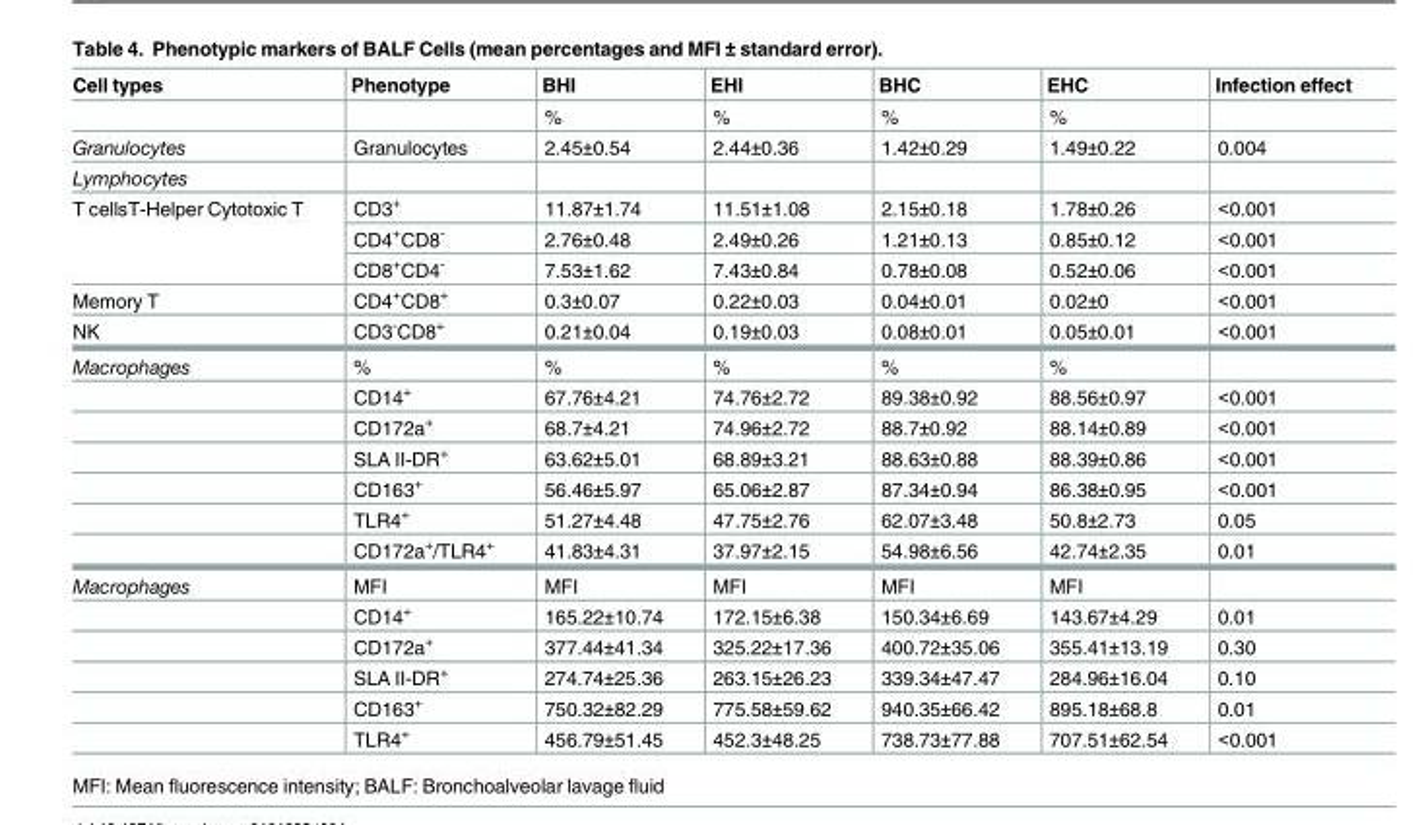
<table><thead><tr><td>Cell types</td><td>Phenotype</td><td>BHI</td><td>EHI</td><td>BHC</td><td>EHC</td><td>Infection effect</td></tr></thead><tbody><tr><td></td><td></td><td>%</td><td>%</td><td>%</td><td>%</td><td></td></tr><tr><td>Granulocytes</td><td>Granulocytes</td><td>2.45±0.54</td><td>2.44±0.36</td><td>1.42±0.29</td><td>1.49±0.22</td><td>0.004</td></tr><tr><td colspan="7">Lymphocytes</td></tr><tr><td rowspan="3">T cellsT-Helper Cytotoxic T</td><td>CD3<sup>+</sup></td><td>11.87±1.74</td><td>11.51±1.08</td><td>2.15±0.18</td><td>1.78±0.26</td><td>&lt;0.001</td></tr><tr><td>CD4<sup>+</sup>CD8<sup>-</sup></td><td>2.76±0.48</td><td>2.49±0.26</td><td>1.21±0.13</td><td>0.85±0.12</td><td>&lt;0.001</td></tr><tr><td>CD8<sup>+</sup>CD4<sup>-</sup></td><td>7.53±1.62</td><td>7.43±0.84</td><td>0.78±0.08</td><td>0.52±0.06</td><td>&lt;0.001</td></tr><tr><td>Memory T</td><td>CD4<sup>+</sup>CD8<sup>+</sup></td><td>0.3±0.07</td><td>0.22±0.03</td><td>0.04±0.01</td><td>0.02±0</td><td>&lt;0.001</td></tr><tr><td>NK</td><td>CD3<sup>-</sup>CD8<sup>+</sup></td><td>0.21±0.04</td><td>0.19±0.03</td><td>0.08±0.01</td><td>0.05±0.01</td><td>&lt;0.001</td></tr><tr><td rowspan="7">Macrophages</td><td>%</td><td>%</td><td>%</td><td>%</td><td>%</td><td></td></tr><tr><td>CD14<sup>+</sup></td><td>67.76±4.21</td><td>74.76±2.72</td><td>89.38±0.92</td><td>88.56±0.97</td><td>&lt;0.001</td></tr><tr><td>CD172a<sup>+</sup></td><td>68.7±4.21</td><td>74.96±2.72</td><td>88.7±0.92</td><td>88.14±0.89</td><td>&lt;0.001</td></tr><tr><td>SLA II-DR<sup>+</sup></td><td>63.62±5.01</td><td>68.89±3.21</td><td>88.63±0.88</td><td>88.39±0.86</td><td>&lt;0.001</td></tr><tr><td>CD163<sup>+</sup></td><td>56.46±5.97</td><td>65.06±2.87</td><td>87.34±0.94</td><td>86.38±0.95</td><td>&lt;0.001</td></tr><tr><td>TLR4<sup>+</sup></td><td>51.27±4.48</td><td>47.75±2.76</td><td>62.07±3.48</td><td>50.8±2.73</td><td>0.05</td></tr><tr><td>CD172a<sup>+</sup>/TLR4<sup>+</sup></td><td>41.83±4.31</td><td>37.97±2.15</td><td>54.98±6.56</td><td>42.74±2.35</td><td>0.01</td></tr><tr><td rowspan="6">Macrophages</td><td>MFI</td><td>MFI</td><td>MFI</td><td>MFI</td><td>MFI</td><td></td></tr><tr><td>CD14<sup>+</sup></td><td>165.22±10.74</td><td>172.15±6.38</td><td>150.34±6.69</td><td>143.67±4.29</td><td>0.01</td></tr><tr><td>CD172a<sup>+</sup></td><td>377.44±41.34</td><td>325.22±17.36</td><td>400.72±35.06</td><td>355.41±13.19</td><td>0.30</td></tr><tr><td>SLA II-DR<sup>+</sup></td><td>274.74±25.36</td><td>263.15±26.23</td><td>339.34±47.47</td><td>284.96±16.04</td><td>0.10</td></tr><tr><td>CD163<sup>+</sup></td><td>750.32±82.29</td><td>775.58±59.62</td><td>940.35±66.42</td><td>895.18±68.8</td><td>0.01</td></tr><tr><td>TLR4<sup>+</sup></td><td>456.79±51.45</td><td>452.3±48.25</td><td>738.73±77.88</td><td>707.51±62.54</td><td>&lt;0.001</td></tr></tbody></table>